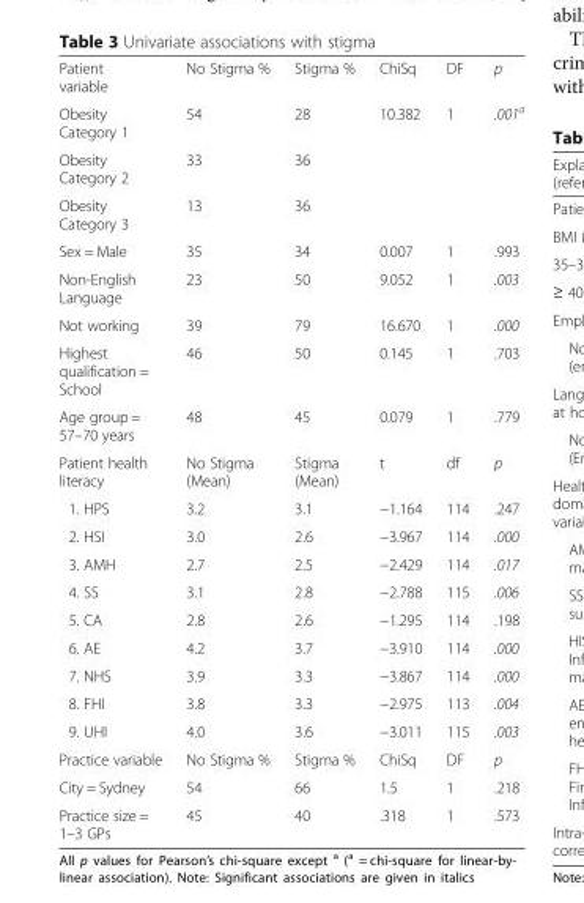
<table><tbody><tr><td>Patient variable</td><td>No Stigma %</td><td>Stigma %</td><td>ChiSq</td><td>DF</td><td>p</td></tr><tr><td>Obesity Category 1</td><td>54</td><td>28</td><td>10.382</td><td>1</td><td>.001<sup>a</sup></td></tr><tr><td>Obesity Category 2</td><td>33</td><td>36</td><td></td><td></td><td></td></tr><tr><td>Obesity Category 3</td><td>13</td><td>36</td><td></td><td></td><td></td></tr><tr><td>Sex = Male</td><td>35</td><td>34</td><td>0.007</td><td>1</td><td>.993</td></tr><tr><td>Non-English Language</td><td>23</td><td>50</td><td>9.052</td><td>1</td><td>.003</td></tr><tr><td>Not working</td><td>39</td><td>79</td><td>16.670</td><td>1</td><td>.000</td></tr><tr><td>Highest qualification = School</td><td>46</td><td>50</td><td>0.145</td><td>1</td><td>.703</td></tr><tr><td>Age group = 57–70 years</td><td>48</td><td>45</td><td>0.079</td><td>1</td><td>.779</td></tr><tr><td>Patient health literacy</td><td>No Stigma (Mean)</td><td>Stigma (Mean)</td><td>t</td><td>df</td><td>p</td></tr><tr><td>1. HPS</td><td>3.2</td><td>3.1</td><td>−1.164</td><td>114</td><td>.247</td></tr><tr><td>2. HSI</td><td>3.0</td><td>2.6</td><td>−3.967</td><td>114</td><td>.000</td></tr><tr><td>3. AMH</td><td>2.7</td><td>2.5</td><td>−2.429</td><td>114</td><td>.017</td></tr><tr><td>4. SS</td><td>3.1</td><td>2.8</td><td>−2.788</td><td>115</td><td>.006</td></tr><tr><td>5. CA</td><td>2.8</td><td>2.6</td><td>−1.295</td><td>114</td><td>.198</td></tr><tr><td>6. AE</td><td>4.2</td><td>3.7</td><td>−3.910</td><td>114</td><td>.000</td></tr><tr><td>7. NHS</td><td>3.9</td><td>3.3</td><td>−3.867</td><td>114</td><td>.000</td></tr><tr><td>8. FHI</td><td>3.8</td><td>3.3</td><td>−2.975</td><td>113</td><td>.004</td></tr><tr><td>9. UHI</td><td>4.0</td><td>3.6</td><td>−3.011</td><td>115</td><td>.003</td></tr><tr><td>Practice variable</td><td>No Stigma %</td><td>Stigma %</td><td>ChiSq</td><td>DF</td><td>p</td></tr><tr><td>City = Sydney</td><td>54</td><td>66</td><td>1.5</td><td>1</td><td>.218</td></tr><tr><td>Practice size = 1–3 GPs</td><td>45</td><td>40</td><td>.318</td><td>1</td><td>.573</td></tr></tbody></table>